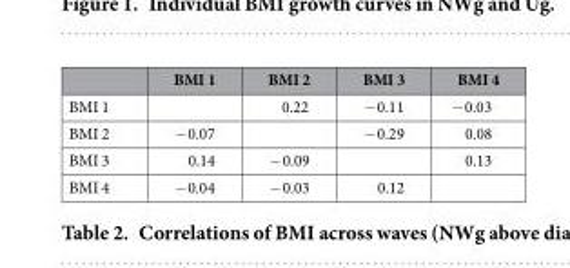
<table><thead><tr><td></td><td>BMI 1</td><td>BMI 2</td><td>BMI 3</td><td>BMI 4</td></tr></thead><tbody><tr><td>BMI 1</td><td></td><td>0.22</td><td>− 0.11</td><td>− 0.03</td></tr><tr><td>BMI 2</td><td>− 0.07</td><td></td><td>− 0.29</td><td>0.08</td></tr><tr><td>BMI 3</td><td>0.14</td><td>− 0.09</td><td></td><td>0.13</td></tr><tr><td>BMI 4</td><td>− 0.04</td><td>− 0.03</td><td>0.12</td><td></td></tr></tbody></table>